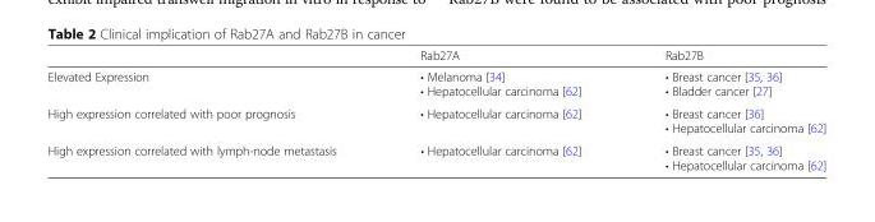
<table><thead><tr><td></td><td>Rab27A</td><td>Rab27B</td></tr></thead><tbody><tr><td>Elevated Expression</td><td>• Melanoma [34] • Hepatocellular carcinoma [62]</td><td>• Breast cancer [35, 36] • Bladder cancer [27]</td></tr><tr><td>High expression correlated with poor prognosis</td><td>• Hepatocellular carcinoma [62]</td><td>• Breast cancer [36] • Hepatocellular carcinoma [62]</td></tr><tr><td>High expression correlated with lymph-node metastasis</td><td>• Hepatocellular carcinoma [62]</td><td>• Breast cancer [35, 36] • Hepatocellular carcinoma [62]</td></tr></tbody></table>